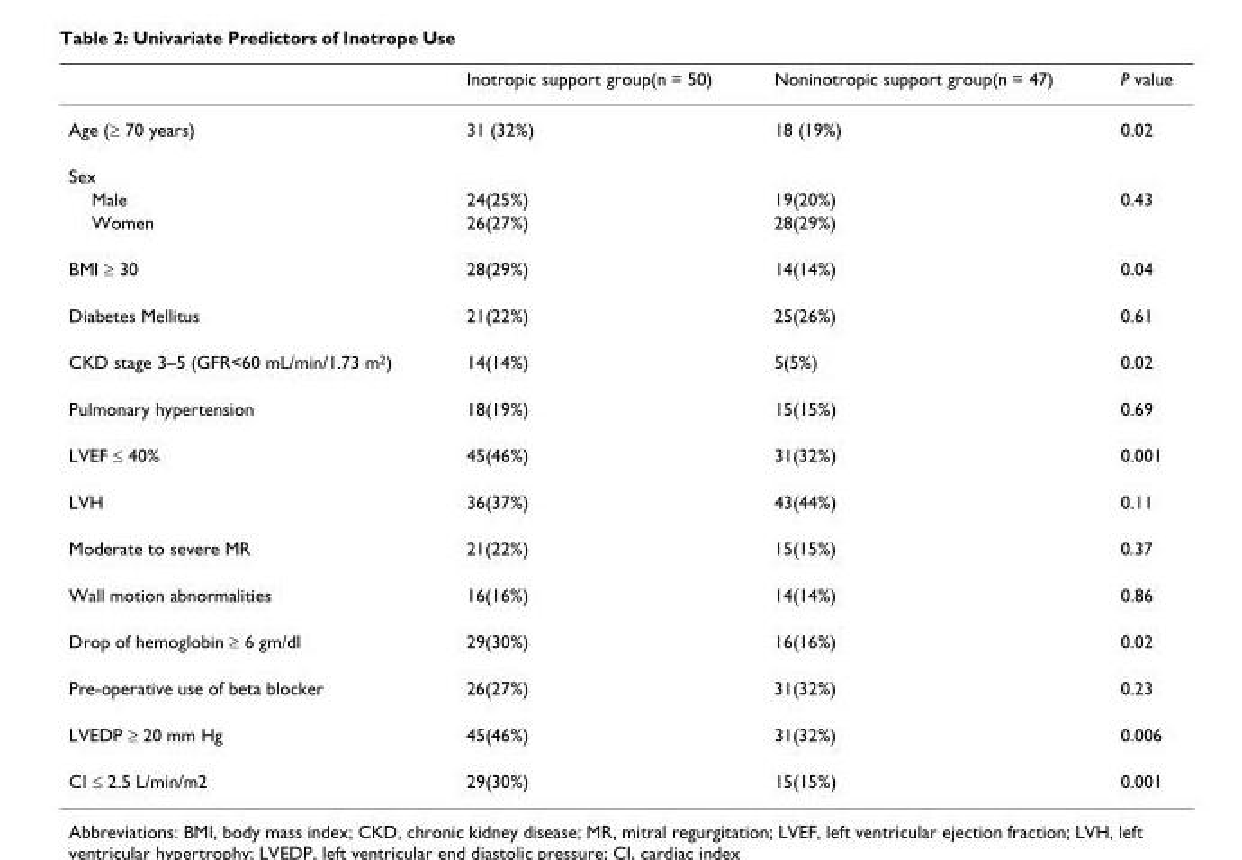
<table><thead><tr><td></td><td>Inotropic support group(n = 50)</td><td>Noninotropic support group(n = 47)</td><td>P value</td></tr></thead><tbody><tr><td>Age (≥ 70 years)</td><td>31 (32%)</td><td>18 (19%)</td><td>0.02</td></tr><tr><td colspan="4">Sex</td></tr><tr><td>Male</td><td>24(25%)</td><td>19(20%)</td><td>0.43</td></tr><tr><td>Women</td><td>26(27%)</td><td>28(29%)</td><td></td></tr><tr><td>BMI ≥ 30</td><td>28(29%)</td><td>14(14%)</td><td>0.04</td></tr><tr><td>Diabetes Mellitus</td><td>21(22%)</td><td>25(26%)</td><td>0.61</td></tr><tr><td>CKD stage 3–5 (GFR&lt;60 mL/min/1.73 m<sup>2</sup>)</td><td>14(14%)</td><td>5(5%)</td><td>0.02</td></tr><tr><td>Pulmonary hypertension</td><td>18(19%)</td><td>15(15%)</td><td>0.69</td></tr><tr><td>LVEF ≤ 40%</td><td>45(46%)</td><td>31(32%)</td><td>0.001</td></tr><tr><td>LVH</td><td>36(37%)</td><td>43(44%)</td><td>0.11</td></tr><tr><td>Moderate to severe MR</td><td>21(22%)</td><td>15(15%)</td><td>0.37</td></tr><tr><td>Wall motion abnormalities</td><td>16(16%)</td><td>14(14%)</td><td>0.86</td></tr><tr><td>Drop of hemoglobin ≥ 6 gm/dl</td><td>29(30%)</td><td>16(16%)</td><td>0.02</td></tr><tr><td>Pre-operative use of beta blocker</td><td>26(27%)</td><td>31(32%)</td><td>0.23</td></tr><tr><td>LVEDP ≥ 20 mm Hg</td><td>45(46%)</td><td>31(32%)</td><td>0.006</td></tr><tr><td>CI ≤ 2.5 L/min/m2</td><td>29(30%)</td><td>15(15%)</td><td>0.001</td></tr></tbody></table>